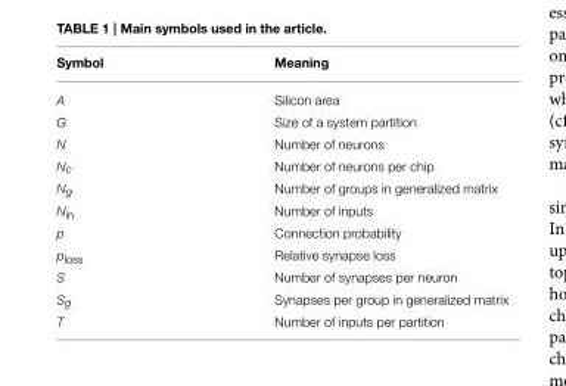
<table><thead><tr><td>Symbol</td><td>Meaning</td></tr></thead><tbody><tr><td>A</td><td>Silicon area</td></tr><tr><td>G</td><td>Size of a system partition</td></tr><tr><td>N</td><td>Number of neurons</td></tr><tr><td>N<sub>c</sub></td><td>Number of neurons per chip</td></tr><tr><td>N<sub>g</sub></td><td>Number of groups in generalized matrix</td></tr><tr><td>N<sub>in</sub></td><td>Number of inputs</td></tr><tr><td>p</td><td>Connection probability</td></tr><tr><td>p<sub>loss</sub></td><td>Relative synapse loss</td></tr><tr><td>S</td><td>Number of synapses per neuron</td></tr><tr><td>S<sub>g</sub></td><td>Synapses per group in generalized matrix</td></tr><tr><td>T</td><td>Number of inputs per partition</td></tr></tbody></table>